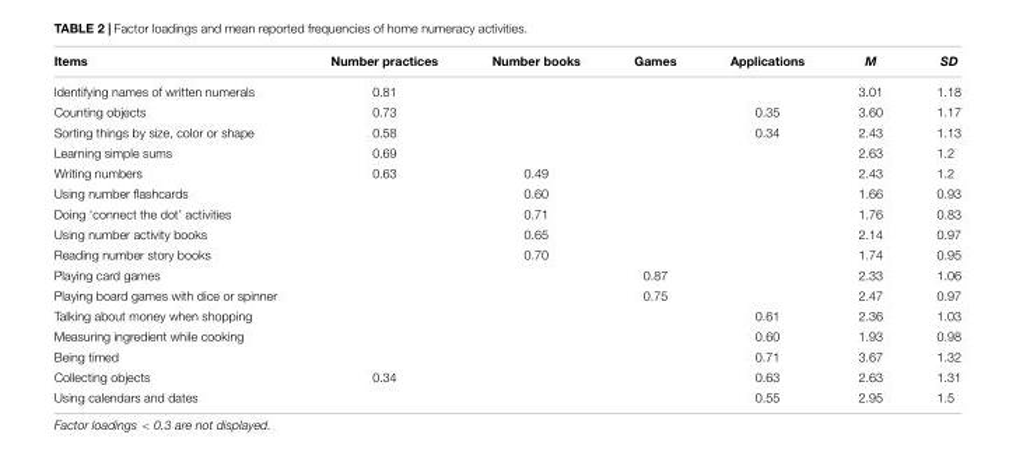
<table><thead><tr><td>Items</td><td>Number practices</td><td>Number books</td><td>Games</td><td>Applications</td><td>M</td><td>SD</td></tr></thead><tbody><tr><td>Identifying names of written numerals</td><td>0.81</td><td></td><td></td><td></td><td>3.01</td><td>1.18</td></tr><tr><td>Counting objects</td><td>0.73</td><td></td><td></td><td>0.35</td><td>3.60</td><td>1.17</td></tr><tr><td>Sorting things by size, color or shape</td><td>0.58</td><td></td><td></td><td>0.34</td><td>2.43</td><td>1.13</td></tr><tr><td>Learning simple sums</td><td>0.69</td><td></td><td></td><td></td><td>2.63</td><td>1.2</td></tr><tr><td>Writing numbers</td><td>0.63</td><td>0.49</td><td></td><td></td><td>2.43</td><td>1.2</td></tr><tr><td>Using number flashcards</td><td></td><td>0.60</td><td></td><td></td><td>1.66</td><td>0.93</td></tr><tr><td>Doing ‘connect the dot’ activities</td><td></td><td>0.71</td><td></td><td></td><td>1.76</td><td>0.83</td></tr><tr><td>Using number activity books</td><td></td><td>0.65</td><td></td><td></td><td>2.14</td><td>0.97</td></tr><tr><td>Reading number story books</td><td></td><td>0.70</td><td></td><td></td><td>1.74</td><td>0.95</td></tr><tr><td>Playing card games</td><td></td><td></td><td>0.87</td><td></td><td>2.33</td><td>1.06</td></tr><tr><td>Playing board games with dice or spinner</td><td></td><td></td><td>0.75</td><td></td><td>2.47</td><td>0.97</td></tr><tr><td>Talking about money when shopping</td><td></td><td></td><td></td><td>0.61</td><td>2.36</td><td>1.03</td></tr><tr><td>Measuring ingredient while cooking</td><td></td><td></td><td></td><td>0.60</td><td>1.93</td><td>0.98</td></tr><tr><td>Being timed</td><td></td><td></td><td></td><td>0.71</td><td>3.67</td><td>1.32</td></tr><tr><td>Collecting objects</td><td>0.34</td><td></td><td></td><td>0.63</td><td>2.63</td><td>1.31</td></tr><tr><td>Using calendars and dates</td><td></td><td></td><td></td><td>0.55</td><td>2.95</td><td>1.5</td></tr></tbody></table>